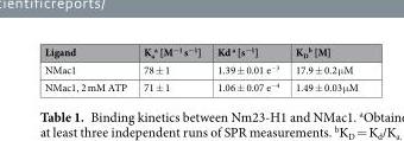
<table><thead><tr><td>Ligand</td><td>K<sub>a</sub> <sup>a</sup> [M<sup>−1</sup> s<sup>−1</sup>]</td><td>Kd <sup>a</sup> [s<sup>−1</sup>]</td><td>K<sub>D</sub> <sup>b</sup> [M]</td></tr></thead><tbody><tr><td>NMac1</td><td>78 ± 1</td><td>1.39 ± 0.01 e<sup>−3</sup></td><td>17.9 ± 0.2 μM</td></tr><tr><td>NMac1, 2 mM ATP</td><td>71 ± 1</td><td>1.06 ± 0.07 e<sup>−4</sup></td><td>1.49 ± 0.03 μM</td></tr></tbody></table>